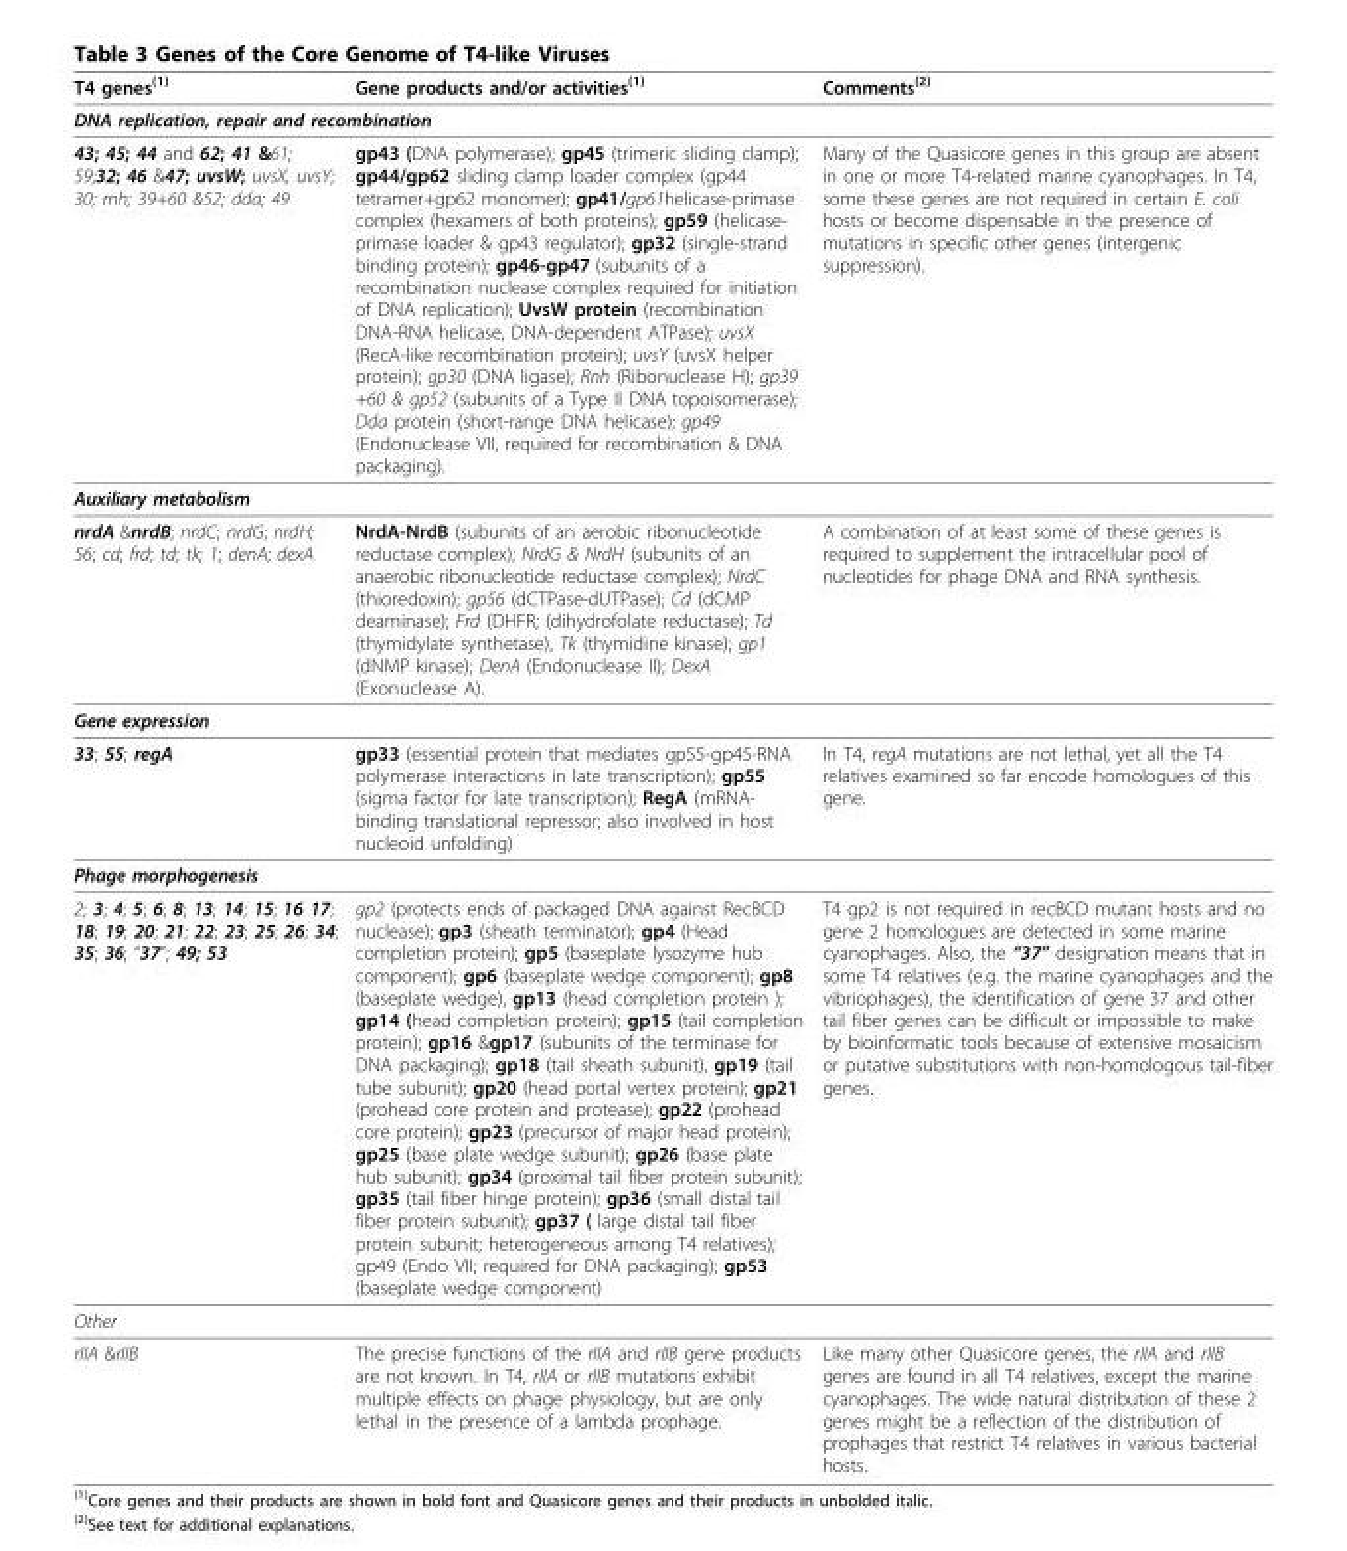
<table><thead><tr><td>T4 genes<sup>(1)</sup></td><td>Gene products and/or activities<sup>(1)</sup></td><td>Comments<sup>(2)</sup></td></tr></thead><tbody><tr><td colspan="3">DNA replication, repair and recombination</td></tr><tr><td>43; 45; 44 and 62; 41 &amp;61; 59;32; 46 &amp;47; uvsW; uvsX, uvsY; 30; rnh; 39+60 &amp;52; dda; 49</td><td>gp43 (DNA polymerase); gp45 (trimeric sliding clamp); gp44/gp62 sliding clamp loader complex (gp44 tetramer+gp62 monomer); gp41/gp61helicase-primase complex (hexamers of both proteins); gp59 (helicase- primase loader &amp; gp43 regulator); gp32 (single-strand binding protein); gp46-gp47 (subunits of a recombination nuclease complex required for initiation of DNA replication); UvsW protein (recombination DNA-RNA helicase, DNA-dependent ATPase); uvsX (RecA-like recombination protein); uvsY (uvsX helper protein); gp30 (DNA ligase); Rnh (Ribonuclease H); gp39 +60 &amp; gp52 (subunits of a Type II DNA topoisomerase); Dda protein (short-range DNA helicase); gp49 (Endonuclease VII, required for recombination &amp; DNA packaging).</td><td>Many of the Quasicore genes in this group are absent in one or more T4-related marine cyanophages. In T4, some these genes are not required in certain E. coli hosts or become dispensable in the presence of mutations in specific other genes (intergenic suppression).</td></tr><tr><td colspan="3">Auxiliary metabolism</td></tr><tr><td>nrdA &amp;nrdB; nrdC; nrdG; nrdH; 56; cd; frd; td; tk; 1; denA; dexA</td><td>NrdA-NrdB (subunits of an aerobic ribonucleotide reductase complex); NrdG &amp; NrdH (subunits of an anaerobic ribonucleotide reductase complex); NrdC (thioredoxin); gp56 (dCTPase-dUTPase); Cd (dCMP deaminase); Frd (DHFR; (dihydrofolate reductase); Td (thymidylate synthetase), Tk (thymidine kinase); gp1 (dNMP kinase); DenA (Endonuclease II); DexA (Exonuclease A).</td><td>A combination of at least some of these genes is required to supplement the intracellular pool of nucleotides for phage DNA and RNA synthesis.</td></tr><tr><td colspan="3">Gene expression</td></tr><tr><td>33; 55; regA</td><td>gp33 (essential protein that mediates gp55-gp45-RNA polymerase interactions in late transcription); gp55 (sigma factor for late transcription); RegA (mRNA- binding translational repressor; also involved in host nucleoid unfolding)</td><td>In T4, regA mutations are not lethal, yet all the T4 relatives examined so far encode homologues of this gene.</td></tr><tr><td colspan="3">Phage morphogenesis</td></tr><tr><td>2; 3; 4; 5; 6; 8; 13; 14; 15; 16 17; 18; 19; 20; 21; 22; 23; 25; 26; 34; 35; 36; “37“; 49; 53</td><td>gp2 (protects ends of packaged DNA against RecBCD nuclease); gp3 (sheath terminator); gp4 (Head completion protein); gp5 (baseplate lysozyme hub component); gp6 (baseplate wedge component); gp8 (baseplate wedge), gp13 (head completion protein ); gp14 (head completion protein); gp15 (tail completion protein); gp16 &amp;gp17 (subunits of the terminase for DNA packaging); gp18 (tail sheath subunit), gp19 (tail tube subunit); gp20 (head portal vertex protein); gp21 (prohead core protein and protease); gp22 (prohead core protein); gp23 (precursor of major head protein); gp25 (base plate wedge subunit); gp26 (base plate hub subunit); gp34 (proximal tail fiber protein subunit); gp35 (tail fiber hinge protein); gp36 (small distal tail fiber protein subunit); gp37 ( large distal tail fiber protein subunit; heterogeneous among T4 relatives); gp49 (Endo VII; required for DNA packaging); gp53 (baseplate wedge component)</td><td>T4 gp2 is not required in recBCD mutant hosts and no gene 2 homologues are detected in some marine cyanophages. Also, the “37” designation means that in some T4 relatives (e.g. the marine cyanophages and the vibriophages), the identification of gene 37 and other tail fiber genes can be difficult or impossible to make by bioinformatic tools because of extensive mosaicism or putative substitutions with non-homologous tail-fiber genes.</td></tr><tr><td colspan="3">Other</td></tr><tr><td>rIIA &amp;rIIB</td><td>The precise functions of the rIIA and rIIB gene products are not known. In T4, rIIA or rIIB mutations exhibit multiple effects on phage physiology, but are only lethal in the presence of a lambda prophage.</td><td>Like many other Quasicore genes, the rIIA and rIIB genes are found in all T4 relatives, except the marine cyanophages. The wide natural distribution of these 2 genes might be a reflection of the distribution of prophages that restrict T4 relatives in various bacterial hosts.</td></tr></tbody></table>